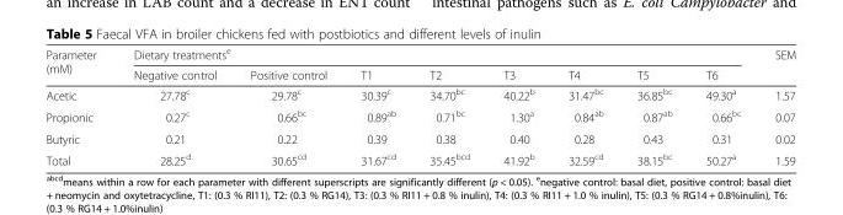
<table><thead><tr><td rowspan="2">Parameter (mM)</td><td colspan="8">Dietary treatments<sup>e</sup></td><td rowspan="2">SEM</td></tr><tr><td>Negative control</td><td>Positive control</td><td>T1</td><td>T2</td><td>T3</td><td>T4</td><td>T5</td><td>T6</td></tr></thead><tbody><tr><td>Acetic</td><td>27.78<sup>c</sup></td><td>29.78<sup>c</sup></td><td>30.39<sup>c</sup></td><td>34.70<sup>bc</sup></td><td>40.22<sup>b</sup></td><td>31.47<sup>bc</sup></td><td>36.85<sup>bc</sup></td><td>49.30<sup>a</sup></td><td>1.57</td></tr><tr><td>Propionic</td><td>0.27<sup>c</sup></td><td>0.66<sup>bc</sup></td><td>0.89<sup>ab</sup></td><td>0.71<sup>bc</sup></td><td>1.30<sup>a</sup></td><td>0.84<sup>ab</sup></td><td>0.87<sup>ab</sup></td><td>0.66<sup>bc</sup></td><td>0.07</td></tr><tr><td>Butyric</td><td>0.21</td><td>0.22</td><td>0.39</td><td>0.38</td><td>0.40</td><td>0.28</td><td>0.43</td><td>0.31</td><td>0.02</td></tr><tr><td>Total</td><td>28.25<sup>d</sup></td><td>30.65<sup>cd</sup></td><td>31.67<sup>cd</sup></td><td>35.45<sup>bcd</sup></td><td>41.92<sup>b</sup></td><td>32.59<sup>cd</sup></td><td>38.15<sup>bc</sup></td><td>50.27<sup>a</sup></td><td>1.59</td></tr></tbody></table>